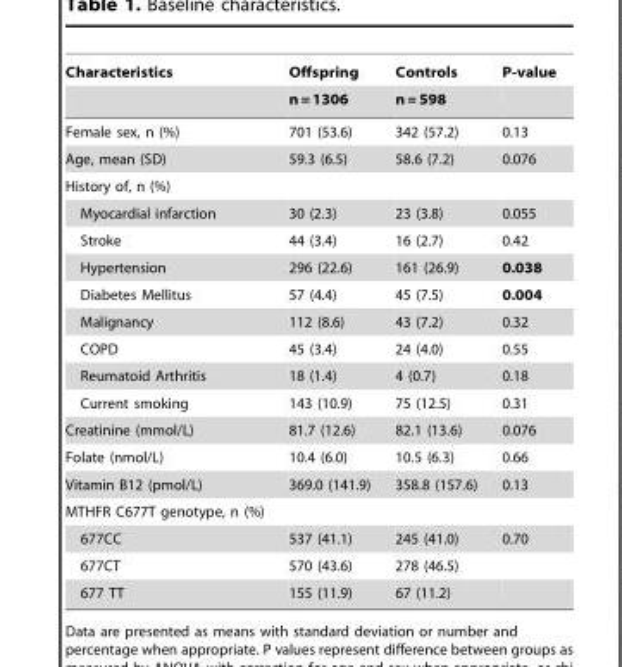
<table><thead><tr><td rowspan="2">Characteristics</td><td rowspan="2">Offspring n = 1306</td><td rowspan="2">Controls n = 598</td><td rowspan="2">P-value</td></tr><tr></tr></thead><tbody><tr><td>Female sex, n (%)</td><td>701 (53.6)</td><td>342 (57.2)</td><td>0.13</td></tr><tr><td>Age, mean (SD)</td><td>59.3 (6.5)</td><td>58.6 (7.2)</td><td>0.076</td></tr><tr><td colspan="4">History of, n (%)</td></tr><tr><td>Myocardial infarction</td><td>30 (2.3)</td><td>23 (3.8)</td><td>0.055</td></tr><tr><td>Stroke</td><td>44 (3.4)</td><td>16 (2.7)</td><td>0.42</td></tr><tr><td>Hypertension</td><td>296 (22.6)</td><td>161 (26.9)</td><td>0.038</td></tr><tr><td>Diabetes Mellitus</td><td>57 (4.4)</td><td>45 (7.5)</td><td>0.004</td></tr><tr><td>Malignancy</td><td>112 (8.6)</td><td>43 (7.2)</td><td>0.32</td></tr><tr><td>COPD</td><td>45 (3.4)</td><td>24 (4.0)</td><td>0.55</td></tr><tr><td>Reumatoid Arthritis</td><td>18 (1.4)</td><td>4 (0.7)</td><td>0.18</td></tr><tr><td>Current smoking</td><td>143 (10.9)</td><td>75 (12.5)</td><td>0.31</td></tr><tr><td>Creatinine (mmol/L)</td><td>81.7 (12.6)</td><td>82.1 (13.6)</td><td>0.076</td></tr><tr><td>Folate (nmol/L)</td><td>10.4 (6.0)</td><td>10.5 (6.3)</td><td>0.66</td></tr><tr><td>Vitamin B12 (pmol/L)</td><td>369.0 (141.9)</td><td>358.8 (157.6)</td><td>0.13</td></tr><tr><td colspan="4">MTHFR C677T genotype, n (%)</td></tr><tr><td>677CC</td><td>537 (41.1)</td><td>245 (41.0)</td><td>0.70</td></tr><tr><td>677CT</td><td>570 (43.6)</td><td>278 (46.5)</td><td></td></tr><tr><td>677 TT</td><td>155 (11.9)</td><td>67 (11.2)</td><td></td></tr></tbody></table>